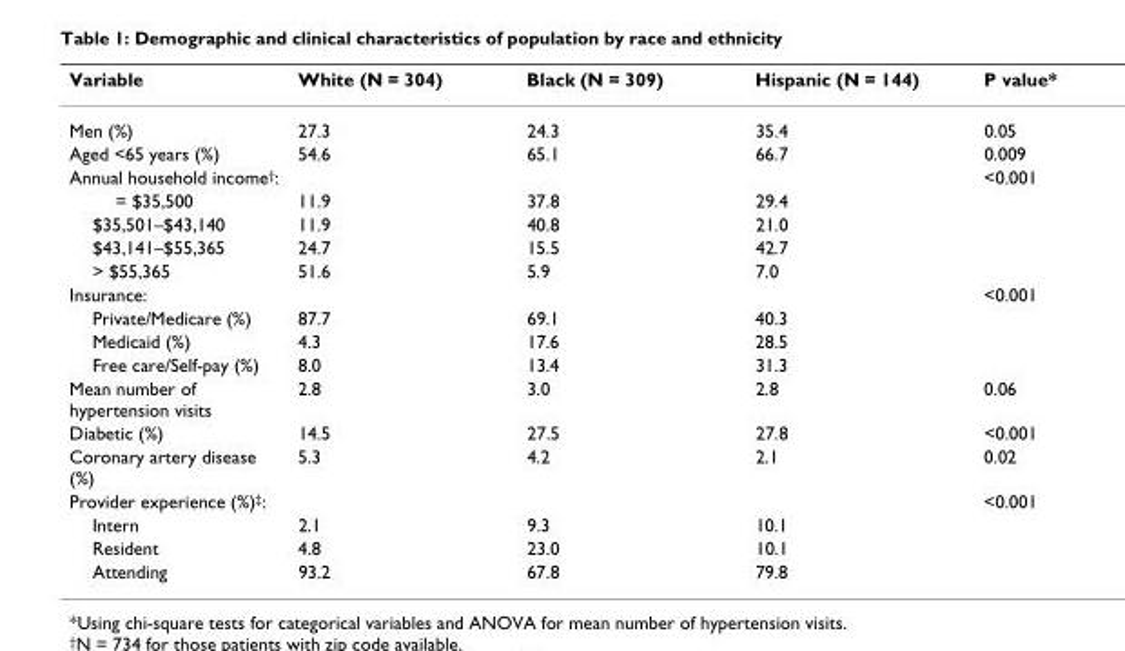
<table><thead><tr><td>Variable</td><td>White (N = 304)</td><td>Black (N = 309)</td><td>Hispanic (N = 144)</td><td>P value*</td></tr></thead><tbody><tr><td>Men (%)</td><td>27.3</td><td>24.3</td><td>35.4</td><td>0.05</td></tr><tr><td>Aged &lt;65 years (%)</td><td>54.6</td><td>65.1</td><td>66.7</td><td>0.009</td></tr><tr><td>Annual household income<sup>†</sup>:</td><td></td><td></td><td></td><td>&lt;0.001</td></tr><tr><td>= $35,500</td><td>11.9</td><td>37.8</td><td>29.4</td><td></td></tr><tr><td>$35,501–$43,140</td><td>11.9</td><td>40.8</td><td>21.0</td><td></td></tr><tr><td>$43,141–$55,365</td><td>24.7</td><td>15.5</td><td>42.7</td><td></td></tr><tr><td>&gt; $55,365</td><td>51.6</td><td>5.9</td><td>7.0</td><td></td></tr><tr><td>Insurance:</td><td></td><td></td><td></td><td>&lt;0.001</td></tr><tr><td>Private/Medicare (%)</td><td>87.7</td><td>69.1</td><td>40.3</td><td></td></tr><tr><td>Medicaid (%)</td><td>4.3</td><td>17.6</td><td>28.5</td><td></td></tr><tr><td>Free care/Self-pay (%)</td><td>8.0</td><td>13.4</td><td>31.3</td><td></td></tr><tr><td>Mean number of hypertension visits</td><td>2.8</td><td>3.0</td><td>2.8</td><td>0.06</td></tr><tr><td>Diabetic (%)</td><td>14.5</td><td>27.5</td><td>27.8</td><td>&lt;0.001</td></tr><tr><td>Coronary artery disease (%)</td><td>5.3</td><td>4.2</td><td>2.1</td><td>0.02</td></tr><tr><td>Provider experience (%)<sup>‡</sup>:</td><td></td><td></td><td></td><td>&lt;0.001</td></tr><tr><td>Intern</td><td>2.1</td><td>9.3</td><td>10.1</td><td></td></tr><tr><td>Resident</td><td>4.8</td><td>23.0</td><td>10.1</td><td></td></tr><tr><td>Attending</td><td>93.2</td><td>67.8</td><td>79.8</td><td></td></tr></tbody></table>